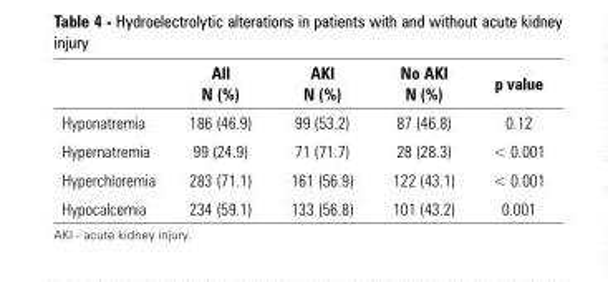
<table><thead><tr><td></td><td>All N (%)</td><td>AKI N (%)</td><td>No AKI N (%)</td><td>p value</td></tr></thead><tbody><tr><td>Hyponatremia</td><td>186 (46.9)</td><td>99 (53.2)</td><td>87 (46.8)</td><td>0.12</td></tr><tr><td>Hypernatremia</td><td>99 (24.9)</td><td>71 (71.7)</td><td>28 (28.3)</td><td>&lt; 0.001</td></tr><tr><td>Hyperchloremia</td><td>283 (71.1)</td><td>161 (56.9)</td><td>122 (43.1)</td><td>&lt; 0.001</td></tr><tr><td>Hypocalcemia</td><td>234 (59.1)</td><td>133 (56.8)</td><td>101 (43.2)</td><td>0.001</td></tr></tbody></table>